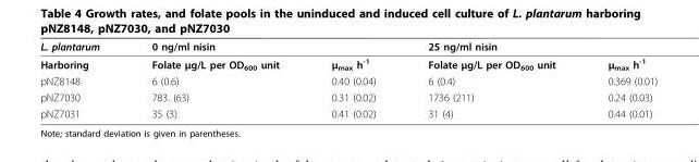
<table><thead><tr><td rowspan="2">L. plantarum Harboring</td><td colspan="2">0 ng/ml nisin</td><td colspan="2">25 ng/ml nisin</td></tr><tr><td>Folate μg/L per OD<sub>600</sub> unit</td><td>μ<sub>max</sub> h<sup>-1</sup></td><td>Folate μg/L per OD<sub>600</sub> unit</td><td>μ<sub>max</sub> h<sup>-1</sup></td></tr></thead><tbody><tr><td>pNZ8148</td><td>6 (0.6)</td><td>0.40 (0.04)</td><td>6 (0.4)</td><td>0.369 (0.01)</td></tr><tr><td>pNZ7030</td><td>783. (63)</td><td>0.31 (0.02)</td><td>1736 (211)</td><td>0.24 (0.03)</td></tr><tr><td>pNZ7031</td><td>35 (3)</td><td>0.41 (0.02)</td><td>31 (4)</td><td>0.44 (0.01)</td></tr></tbody></table>